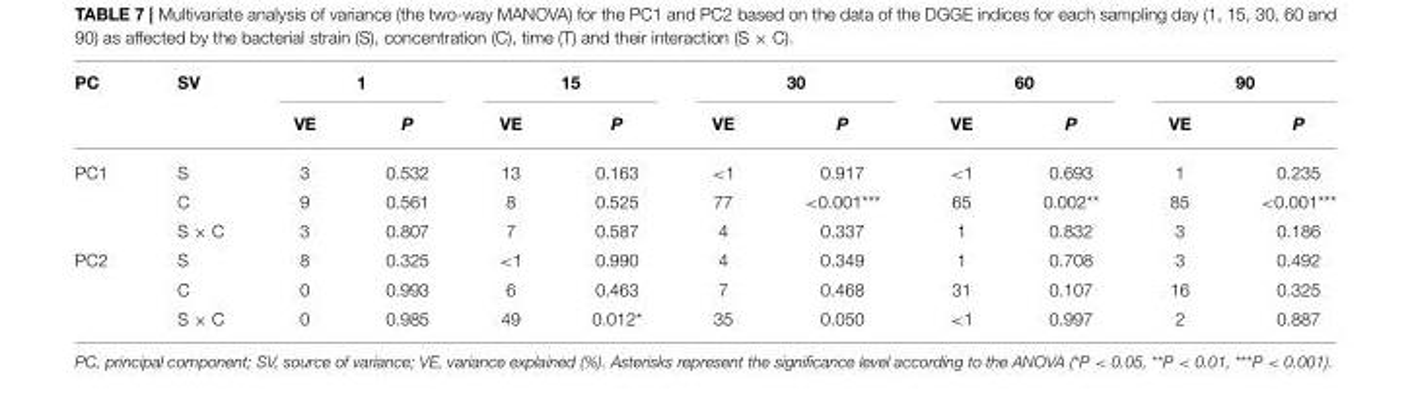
<table><thead><tr><td rowspan="2">PC</td><td rowspan="2">SV</td><td colspan="2">1</td><td colspan="2">15</td><td colspan="2">30</td><td colspan="2">60</td><td colspan="2">90</td></tr><tr><td>VE</td><td>P</td><td>VE</td><td>P</td><td>VE</td><td>P</td><td>VE</td><td>P</td><td>VE</td><td>P</td></tr></thead><tbody><tr><td rowspan="3">PC1</td><td>S</td><td>3</td><td>0.532</td><td>13</td><td>0.163</td><td>&lt;1</td><td>0.917</td><td>&lt;1</td><td>0.693</td><td>1</td><td>0.235</td></tr><tr><td>C</td><td>9</td><td>0.561</td><td>8</td><td>0.525</td><td>77</td><td>&lt;0.001***</td><td>65</td><td>0.002**</td><td>85</td><td>&lt;0.001***</td></tr><tr><td>S × C</td><td>3</td><td>0.807</td><td>7</td><td>0.587</td><td>4</td><td>0.337</td><td>1</td><td>0.832</td><td>3</td><td>0.186</td></tr><tr><td rowspan="3">PC2</td><td>S</td><td>8</td><td>0.325</td><td>&lt;1</td><td>0.990</td><td>4</td><td>0.349</td><td>1</td><td>0.708</td><td>3</td><td>0.492</td></tr><tr><td>C</td><td>0</td><td>0.993</td><td>6</td><td>0.463</td><td>7</td><td>0.468</td><td>31</td><td>0.107</td><td>16</td><td>0.325</td></tr><tr><td>S × C</td><td>0</td><td>0.985</td><td>49</td><td>0.012*</td><td>35</td><td>0.050</td><td>&lt;1</td><td>0.997</td><td>2</td><td>0.887</td></tr></tbody></table>